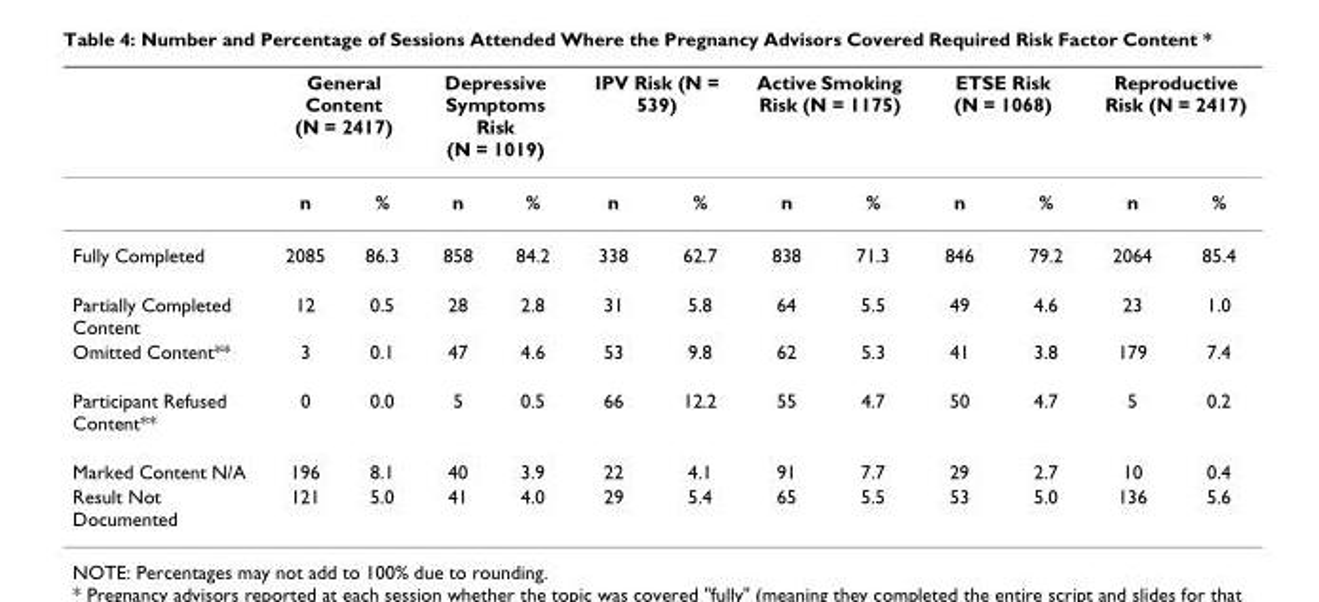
<table><thead><tr><td rowspan="2"></td><td colspan="2">General Content (N = 2417)</td><td colspan="2">Depressive Symptoms Risk (N = 1019)</td><td colspan="2">IPV Risk (N = 539)</td><td colspan="2">Active Smoking Risk (N = 1175)</td><td colspan="2">ETSE Risk (N = 1068)</td><td colspan="2">Reproductive Risk (N = 2417)</td></tr><tr><td>n</td><td>%</td><td>n</td><td>%</td><td>n</td><td>%</td><td>n</td><td>%</td><td>n</td><td>%</td><td>n</td><td>%</td></tr></thead><tbody><tr><td>Fully Completed</td><td>2085</td><td>86.3</td><td>858</td><td>84.2</td><td>338</td><td>62.7</td><td>838</td><td>71.3</td><td>846</td><td>79.2</td><td>2064</td><td>85.4</td></tr><tr><td>Partially Completed Content</td><td>12</td><td>0.5</td><td>28</td><td>2.8</td><td>31</td><td>5.8</td><td>64</td><td>5.5</td><td>49</td><td>4.6</td><td>23</td><td>1.0</td></tr><tr><td>Omitted Content**</td><td>3</td><td>0.1</td><td>47</td><td>4.6</td><td>53</td><td>9.8</td><td>62</td><td>5.3</td><td>41</td><td>3.8</td><td>179</td><td>7.4</td></tr><tr><td>Participant Refused Content**</td><td>0</td><td>0.0</td><td>5</td><td>0.5</td><td>66</td><td>12.2</td><td>55</td><td>4.7</td><td>50</td><td>4.7</td><td>5</td><td>0.2</td></tr><tr><td>Marked Content N/A</td><td>196</td><td>8.1</td><td>40</td><td>3.9</td><td>22</td><td>4.1</td><td>91</td><td>7.7</td><td>29</td><td>2.7</td><td>10</td><td>0.4</td></tr><tr><td>Result Not Documented</td><td>121</td><td>5.0</td><td>41</td><td>4.0</td><td>29</td><td>5.4</td><td>65</td><td>5.5</td><td>53</td><td>5.0</td><td>136</td><td>5.6</td></tr></tbody></table>